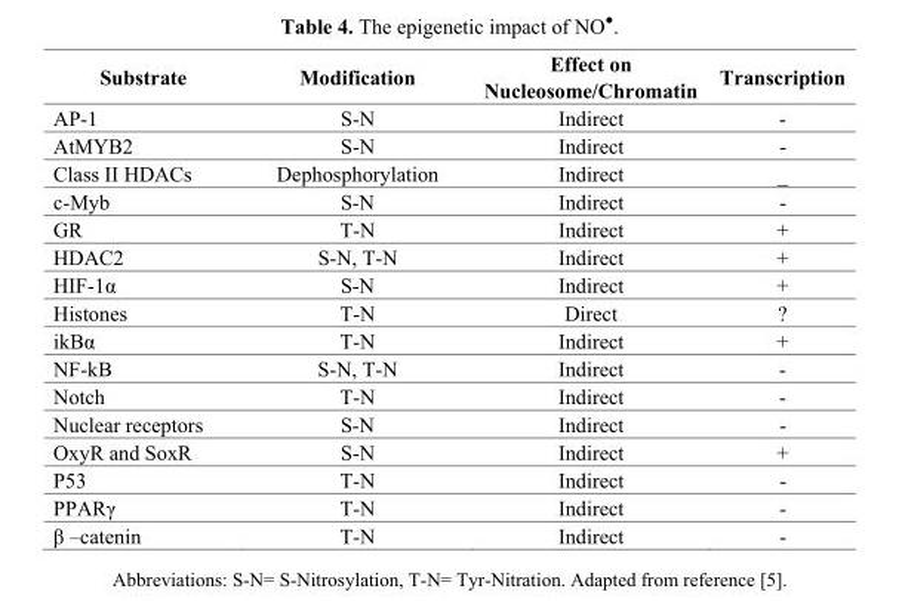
<table><thead><tr><td>Substrate</td><td>Modification</td><td>Effect on Nucleosome/Chromatin</td><td>Transcription</td></tr></thead><tbody><tr><td>AP-1</td><td>S-N</td><td>Indirect</td><td>-</td></tr><tr><td>AtMYB2</td><td>S-N</td><td>Indirect</td><td>-</td></tr><tr><td>Class II HDACs</td><td>Dephosphorylation</td><td>Indirect</td><td>_</td></tr><tr><td>c-Myb</td><td>S-N</td><td>Indirect</td><td>-</td></tr><tr><td>GR</td><td>T-N</td><td>Indirect</td><td>+</td></tr><tr><td>HDAC2</td><td>S-N, T-N</td><td>Indirect</td><td>+</td></tr><tr><td>HIF-1α</td><td>S-N</td><td>Indirect</td><td>+</td></tr><tr><td>Histones</td><td>T-N</td><td>Direct</td><td>?</td></tr><tr><td>ikBα</td><td>T-N</td><td>Indirect</td><td>+</td></tr><tr><td>NF-kB</td><td>S-N, T-N</td><td>Indirect</td><td>-</td></tr><tr><td>Notch</td><td>T-N</td><td>Indirect</td><td>-</td></tr><tr><td>Nuclear receptors</td><td>S-N</td><td>Indirect</td><td>-</td></tr><tr><td>OxyR and SoxR</td><td>S-N</td><td>Indirect</td><td>+</td></tr><tr><td>P53</td><td>T-N</td><td>Indirect</td><td>-</td></tr><tr><td>PPARγ</td><td>T-N</td><td>Indirect</td><td>-</td></tr><tr><td>β –catenin</td><td>T-N</td><td>Indirect</td><td>-</td></tr></tbody></table>